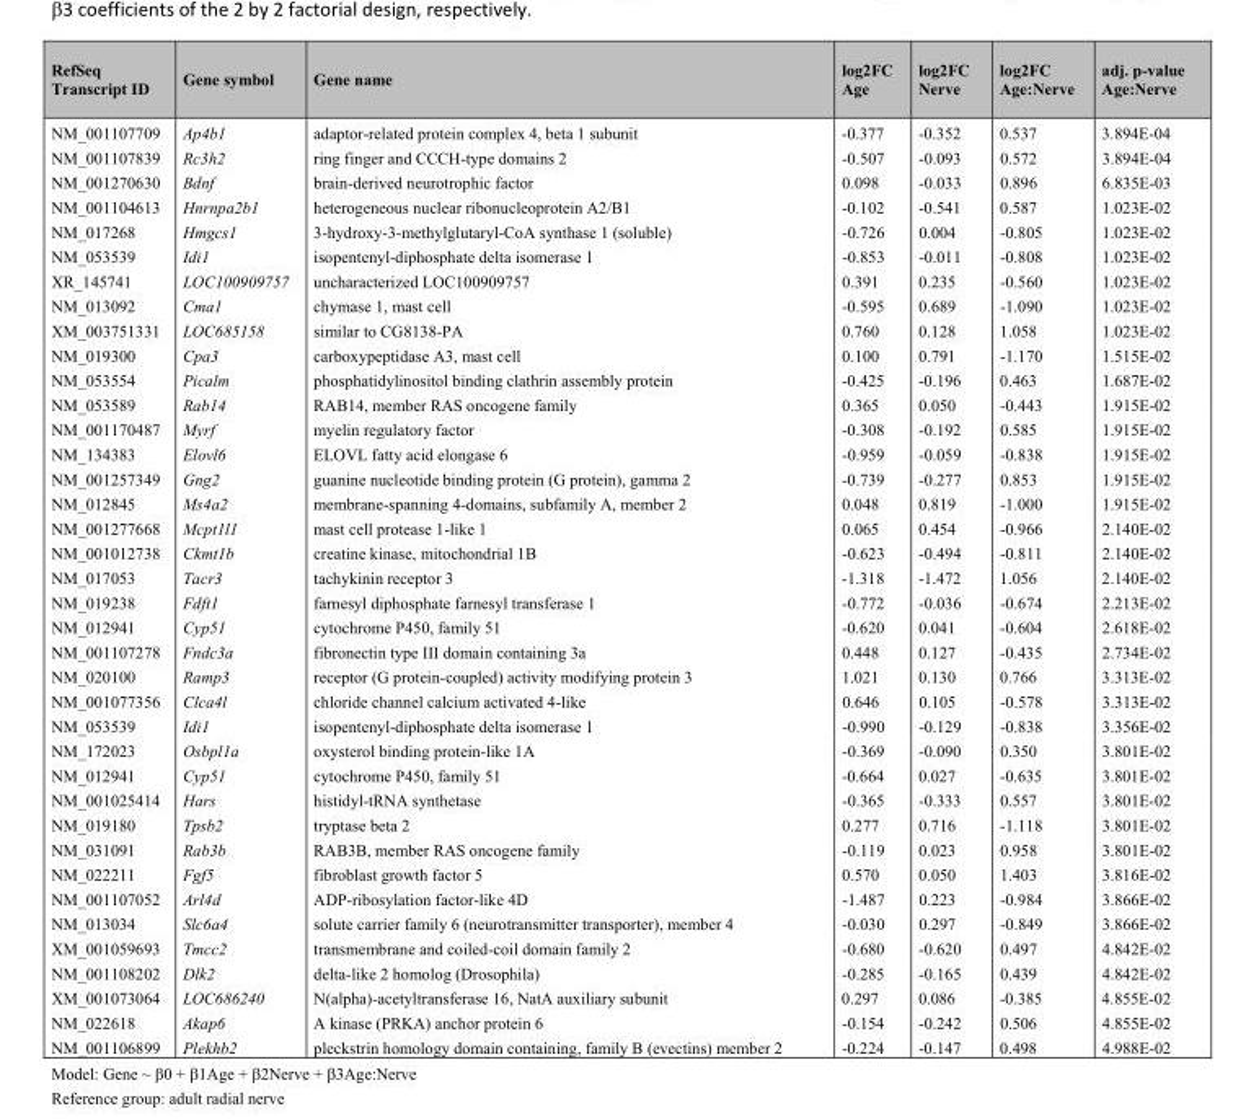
<table><thead><tr><td>RefSeq Transcript ID</td><td>Gene symbol</td><td>Gene name</td><td>log2FC Age</td><td>log2FC Nerve</td><td>log2FC Age:Nerve</td><td>adj. p-value Age:Nerve</td></tr></thead><tbody><tr><td>NM_001107709</td><td>Ap4b1</td><td>adaptor-related protein complex 4, beta 1 subunit</td><td>-0.377</td><td>-0.352</td><td>0.537</td><td>3.894E-04</td></tr><tr><td>NM_001107839</td><td>Rc3h2</td><td>ring finger and CCCH-type domains 2</td><td>-0.507</td><td>-0.093</td><td>0.572</td><td>3.894E-04</td></tr><tr><td>NM_001270630</td><td>Bdnf</td><td>brain-derived neurotrophic factor</td><td>0.098</td><td>-0.033</td><td>0.896</td><td>6.835E-03</td></tr><tr><td>NM_001104613</td><td>Hnrnpa2b1</td><td>heterogeneous nuclear ribonucleoprotein A2/B1</td><td>-0.102</td><td>-0.541</td><td>0.587</td><td>1.023E-02</td></tr><tr><td>NM_017268</td><td>Hmgcs1</td><td>3-hydroxy-3-methylglutaryl-CoA synthase 1 (soluble)</td><td>-0.726</td><td>0.004</td><td>-0.805</td><td>1.023E-02</td></tr><tr><td>NM_053539</td><td>Idi1</td><td>isopentenyl-diphosphate delta isomerase 1</td><td>-0.853</td><td>-0.011</td><td>-0.808</td><td>1.023E-02</td></tr><tr><td>XR_145741</td><td>LOC100909757</td><td>uncharacterized LOC100909757</td><td>0.391</td><td>0.235</td><td>-0.560</td><td>1.023E-02</td></tr><tr><td>NM_013092</td><td>Cma1</td><td>chymase 1, mast cell</td><td>-0.595</td><td>0.689</td><td>-1.090</td><td>1.023E-02</td></tr><tr><td>XM_003751331</td><td>LOC685158</td><td>similar to CG8138-PA</td><td>0.760</td><td>0.128</td><td>1.058</td><td>1.023E-02</td></tr><tr><td>NM_019300</td><td>Cpa3</td><td>carboxypeptidase A3, mast cell</td><td>0.100</td><td>0.791</td><td>-1.170</td><td>1.515E-02</td></tr><tr><td>NM_053554</td><td>Picalm</td><td>phosphatidylinositol binding clathrin assembly protein</td><td>-0.425</td><td>-0.196</td><td>0.463</td><td>1.687E-02</td></tr><tr><td>NM_053589</td><td>Rab14</td><td>RAB14, member RAS oncogene family</td><td>0.365</td><td>0.050</td><td>-0.443</td><td>1.915E-02</td></tr><tr><td>NM_001170487</td><td>Myrf</td><td>myelin regulatory factor</td><td>-0.308</td><td>-0.192</td><td>0.585</td><td>1.915E-02</td></tr><tr><td>NM_134383</td><td>Elovl6</td><td>ELOVL fatty acid elongase 6</td><td>-0.959</td><td>-0.059</td><td>-0.838</td><td>1.915E-02</td></tr><tr><td>NM_001257349</td><td>Gng2</td><td>guanine nucleotide binding protein (G protein), gamma 2</td><td>-0.739</td><td>-0.277</td><td>0.853</td><td>1.915E-02</td></tr><tr><td>NM_012845</td><td>Ms4a2</td><td>membrane-spanning 4-domains, subfamily A, member 2</td><td>0.048</td><td>0.819</td><td>-1.000</td><td>1.915E-02</td></tr><tr><td>NM_001277668</td><td>Mcpt1l1</td><td>mast cell protease 1-like 1</td><td>0.065</td><td>0.454</td><td>-0.966</td><td>2.140E-02</td></tr><tr><td>NM_001012738</td><td>Ckmt1b</td><td>creatine kinase, mitochondrial 1B</td><td>-0.623</td><td>-0.494</td><td>-0.811</td><td>2.140E-02</td></tr><tr><td>NM_017053</td><td>Tacr3</td><td>tachykinin receptor 3</td><td>-1.318</td><td>-1.472</td><td>1.056</td><td>2.140E-02</td></tr><tr><td>NM_019238</td><td>Fdft1</td><td>farnesyl diphosphate farnesyl transferase 1</td><td>-0.772</td><td>-0.036</td><td>-0.674</td><td>2.213E-02</td></tr><tr><td>NM_012941</td><td>Cyp51</td><td>cytochrome P450, family 51</td><td>-0.620</td><td>0.041</td><td>-0.604</td><td>2.618E-02</td></tr><tr><td>NM_001107278</td><td>Fndc3a</td><td>fibronectin type III domain containing 3a</td><td>0.448</td><td>0.127</td><td>-0.435</td><td>2.734E-02</td></tr><tr><td>NM_020100</td><td>Ramp3</td><td>receptor (G protein-coupled) activity modifying protein 3</td><td>1.021</td><td>0.130</td><td>0.766</td><td>3.313E-02</td></tr><tr><td>NM_001077356</td><td>Clca4l</td><td>chloride channel calcium activated 4-like</td><td>0.646</td><td>0.105</td><td>-0.578</td><td>3.313E-02</td></tr><tr><td>NM_053539</td><td>Idi1</td><td>isopentenyl-diphosphate delta isomerase 1</td><td>-0.990</td><td>-0.129</td><td>-0.838</td><td>3.356E-02</td></tr><tr><td>NM_172023</td><td>Osbpl1a</td><td>oxysterol binding protein-like 1A</td><td>-0.369</td><td>-0.090</td><td>0.350</td><td>3.801E-02</td></tr><tr><td>NM_012941</td><td>Cyp51</td><td>cytochrome P450, family 51</td><td>-0.664</td><td>0.027</td><td>-0.635</td><td>3.801E-02</td></tr><tr><td>NM_001025414</td><td>Hars</td><td>histidyl-tRNA synthetase</td><td>-0.365</td><td>-0.333</td><td>0.557</td><td>3.801E-02</td></tr><tr><td>NM_019180</td><td>Tpsb2</td><td>tryptase beta 2</td><td>0.277</td><td>0.716</td><td>-1.118</td><td>3.801E-02</td></tr><tr><td>NM_031091</td><td>Rab3b</td><td>RAB3B, member RAS oncogene family</td><td>-0.119</td><td>0.023</td><td>0.958</td><td>3.801E-02</td></tr><tr><td>NM_022211</td><td>Fgf5</td><td>fibroblast growth factor 5</td><td>0.570</td><td>0.050</td><td>1.403</td><td>3.816E-02</td></tr><tr><td>NM_001107052</td><td>Arl4d</td><td>ADP-ribosylation factor-like 4D</td><td>-1.487</td><td>0.223</td><td>-0.984</td><td>3.866E-02</td></tr><tr><td>NM_013034</td><td>Slc6a4</td><td>solute carrier family 6 (neurotransmitter transporter), member 4</td><td>-0.030</td><td>0.297</td><td>-0.849</td><td>3.866E-02</td></tr><tr><td>XM_001059693</td><td>Tmcc2</td><td>transmembrane and coiled-coil domain family 2</td><td>-0.680</td><td>-0.620</td><td>0.497</td><td>4.842E-02</td></tr><tr><td>NM_001108202</td><td>Dlk2</td><td>delta-like 2 homolog (Drosophila)</td><td>-0.285</td><td>-0.165</td><td>0.439</td><td>4.842E-02</td></tr><tr><td>XM_001073064</td><td>LOC686240</td><td>N(alpha)-acetyltransferase 16, NatA auxiliary subunit</td><td>0.297</td><td>0.086</td><td>-0.385</td><td>4.855E-02</td></tr><tr><td>NM_022618</td><td>Akap6</td><td>A kinase (PRKA) anchor protein 6</td><td>-0.154</td><td>-0.242</td><td>0.506</td><td>4.855E-02</td></tr><tr><td>NM_001106899</td><td>Plekhb2</td><td>pleckstrin homology domain containing, family B (evectins) member 2</td><td>-0.224</td><td>-0.147</td><td>0.498</td><td>4.988E-02</td></tr></tbody></table>